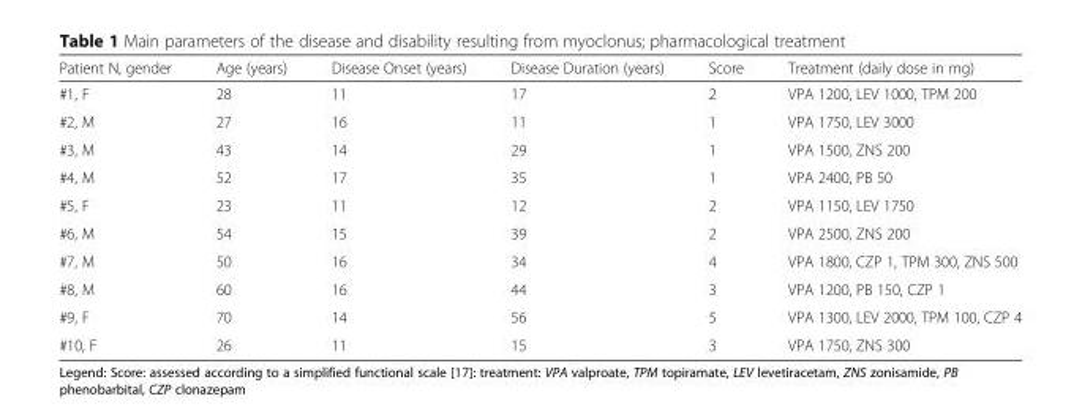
<table><thead><tr><td>Patient N, gender</td><td>Age (years)</td><td>Disease Onset (years)</td><td>Disease Duration (years)</td><td>Score</td><td>Treatment (daily dose in mg)</td></tr></thead><tbody><tr><td>#1, F</td><td>28</td><td>11</td><td>17</td><td>2</td><td>VPA 1200, LEV 1000, TPM 200</td></tr><tr><td>#2, M</td><td>27</td><td>16</td><td>11</td><td>1</td><td>VPA 1750, LEV 3000</td></tr><tr><td>#3, M</td><td>43</td><td>14</td><td>29</td><td>1</td><td>VPA 1500, ZNS 200</td></tr><tr><td>#4, M</td><td>52</td><td>17</td><td>35</td><td>1</td><td>VPA 2400, PB 50</td></tr><tr><td>#5, F</td><td>23</td><td>11</td><td>12</td><td>2</td><td>VPA 1150, LEV 1750</td></tr><tr><td>#6, M</td><td>54</td><td>15</td><td>39</td><td>2</td><td>VPA 2500, ZNS 200</td></tr><tr><td>#7, M</td><td>50</td><td>16</td><td>34</td><td>4</td><td>VPA 1800, CZP 1, TPM 300, ZNS 500</td></tr><tr><td>#8, M</td><td>60</td><td>16</td><td>44</td><td>3</td><td>VPA 1200, PB 150, CZP 1</td></tr><tr><td>#9, F</td><td>70</td><td>14</td><td>56</td><td>5</td><td>VPA 1300, LEV 2000, TPM 100, CZP 4</td></tr><tr><td>#10, F</td><td>26</td><td>11</td><td>15</td><td>3</td><td>VPA 1750, ZNS 300</td></tr></tbody></table>